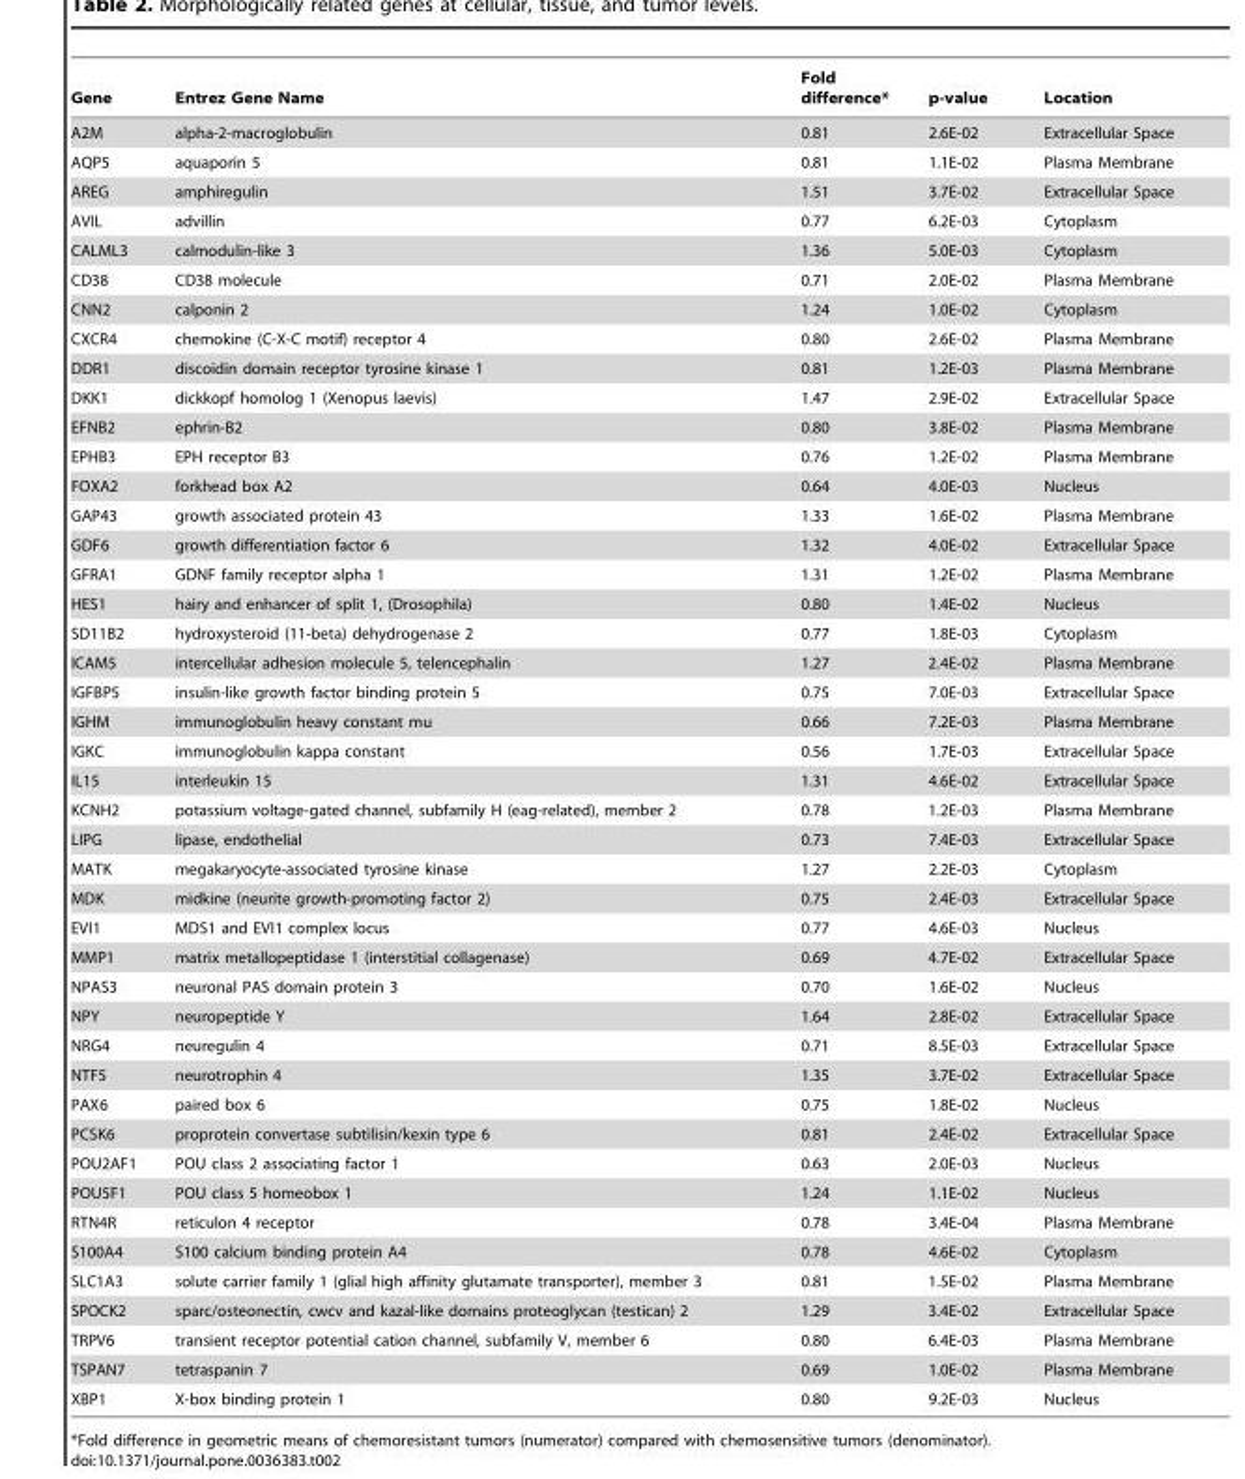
<table><thead><tr><td>Gene</td><td>Entrez Gene Name</td><td>Fold difference*</td><td>p-value</td><td>Location</td></tr></thead><tbody><tr><td>A2M</td><td>alpha-2-macroglobulin</td><td>0.81</td><td>2.6E-02</td><td>Extracellular Space</td></tr><tr><td>AQP5</td><td>aquaporin 5</td><td>0.81</td><td>1.1E-02</td><td>Plasma Membrane</td></tr><tr><td>AREG</td><td>amphiregulin</td><td>1.51</td><td>3.7E-02</td><td>Extracellular Space</td></tr><tr><td>AVIL</td><td>advillin</td><td>0.77</td><td>6.2E-03</td><td>Cytoplasm</td></tr><tr><td>CALML3</td><td>calmodulin-like 3</td><td>1.36</td><td>5.0E-03</td><td>Cytoplasm</td></tr><tr><td>CD38</td><td>CD38 molecule</td><td>0.71</td><td>2.0E-02</td><td>Plasma Membrane</td></tr><tr><td>CNN2</td><td>calponin 2</td><td>1.24</td><td>1.0E-02</td><td>Cytoplasm</td></tr><tr><td>CXCR4</td><td>chemokine (C-X-C motif) receptor 4</td><td>0.80</td><td>2.6E-02</td><td>Plasma Membrane</td></tr><tr><td>DDR1</td><td>discoidin domain receptor tyrosine kinase 1</td><td>0.81</td><td>1.2E-03</td><td>Plasma Membrane</td></tr><tr><td>DKK1</td><td>dickkopf homolog 1 (Xenopus laevis)</td><td>1.47</td><td>2.9E-02</td><td>Extracellular Space</td></tr><tr><td>EFNB2</td><td>ephrin-B2</td><td>0.80</td><td>3.8E-02</td><td>Plasma Membrane</td></tr><tr><td>EPHB3</td><td>EPH receptor B3</td><td>0.76</td><td>1.2E-02</td><td>Plasma Membrane</td></tr><tr><td>FOXA2</td><td>forkhead box A2</td><td>0.64</td><td>4.0E-03</td><td>Nucleus</td></tr><tr><td>GAP43</td><td>growth associated protein 43</td><td>1.33</td><td>1.6E-02</td><td>Plasma Membrane</td></tr><tr><td>GDF6</td><td>growth differentiation factor 6</td><td>1.32</td><td>4.0E-02</td><td>Extracellular Space</td></tr><tr><td>GFRA1</td><td>GDNF family receptor alpha 1</td><td>1.31</td><td>1.2E-02</td><td>Plasma Membrane</td></tr><tr><td>HES1</td><td>hairy and enhancer of split 1, (Drosophila)</td><td>0.80</td><td>1.4E-02</td><td>Nucleus</td></tr><tr><td>SD11B2</td><td>hydroxysteroid (11-beta) dehydrogenase 2</td><td>0.77</td><td>1.8E-03</td><td>Cytoplasm</td></tr><tr><td>ICAM5</td><td>intercellular adhesion molecule 5, telencephalin</td><td>1.27</td><td>2.4E-02</td><td>Plasma Membrane</td></tr><tr><td>IGFBP5</td><td>insulin-like growth factor binding protein 5</td><td>0.75</td><td>7.0E-03</td><td>Extracellular Space</td></tr><tr><td>IGHM</td><td>immunoglobulin heavy constant mu</td><td>0.66</td><td>7.2E-03</td><td>Plasma Membrane</td></tr><tr><td>IGKC</td><td>immunoglobulin kappa constant</td><td>0.56</td><td>1.7E-03</td><td>Extracellular Space</td></tr><tr><td>IL15</td><td>interleukin 15</td><td>1.31</td><td>4.6E-02</td><td>Extracellular Space</td></tr><tr><td>KCNH2</td><td>potassium voltage-gated channel, subfamily H (eag-related), member 2</td><td>0.78</td><td>1.2E-03</td><td>Plasma Membrane</td></tr><tr><td>LIPG</td><td>lipase, endothelial</td><td>0.73</td><td>7.4E-03</td><td>Extracellular Space</td></tr><tr><td>MATK</td><td>megakaryocyte-associated tyrosine kinase</td><td>1.27</td><td>2.2E-03</td><td>Cytoplasm</td></tr><tr><td>MDK</td><td>midkine (neurite growth-promoting factor 2)</td><td>0.75</td><td>2.4E-03</td><td>Extracellular Space</td></tr><tr><td>EVI1</td><td>MDS1 and EVI1 complex locus</td><td>0.77</td><td>4.6E-03</td><td>Nucleus</td></tr><tr><td>MMP1</td><td>matrix metallopeptidase 1 (interstitial collagenase)</td><td>0.69</td><td>4.7E-02</td><td>Extracellular Space</td></tr><tr><td>NPAS3</td><td>neuronal PAS domain protein 3</td><td>0.70</td><td>1.6E-02</td><td>Nucleus</td></tr><tr><td>NPY</td><td>neuropeptide Y</td><td>1.64</td><td>2.8E-02</td><td>Extracellular Space</td></tr><tr><td>NRG4</td><td>neuregulin 4</td><td>0.71</td><td>8.5E-03</td><td>Extracellular Space</td></tr><tr><td>NTF5</td><td>neurotrophin 4</td><td>1.35</td><td>3.7E-02</td><td>Extracellular Space</td></tr><tr><td>PAX6</td><td>paired box 6</td><td>0.75</td><td>1.8E-02</td><td>Nucleus</td></tr><tr><td>PCSK6</td><td>proprotein convertase subtilisin/kexin type 6</td><td>0.81</td><td>2.4E-02</td><td>Extracellular Space</td></tr><tr><td>POU2AF1</td><td>POU class 2 associating factor 1</td><td>0.63</td><td>2.0E-03</td><td>Nucleus</td></tr><tr><td>POU5F1</td><td>POU class 5 homeobox 1</td><td>1.24</td><td>1.1E-02</td><td>Nucleus</td></tr><tr><td>RTN4R</td><td>reticulon 4 receptor</td><td>0.78</td><td>3.4E-04</td><td>Plasma Membrane</td></tr><tr><td>S100A4</td><td>S100 calcium binding protein A4</td><td>0.78</td><td>4.6E-02</td><td>Cytoplasm</td></tr><tr><td>SLC1A3</td><td>solute carrier family 1 (glial high affinity glutamate transporter), member 3</td><td>0.81</td><td>1.5E-02</td><td>Plasma Membrane</td></tr><tr><td>SPOCK2</td><td>sparc/osteonectin, cwcv and kazal-like domains proteoglycan (testican) 2</td><td>1.29</td><td>3.4E-02</td><td>Extracellular Space</td></tr><tr><td>TRPV6</td><td>transient receptor potential cation channel, subfamily V, member 6</td><td>0.80</td><td>6.4E-03</td><td>Plasma Membrane</td></tr><tr><td>TSPAN7</td><td>tetraspanin 7</td><td>0.69</td><td>1.0E-02</td><td>Plasma Membrane</td></tr><tr><td>XBP1</td><td>X-box binding protein 1</td><td>0.80</td><td>9.2E-03</td><td>Nucleus</td></tr></tbody></table>